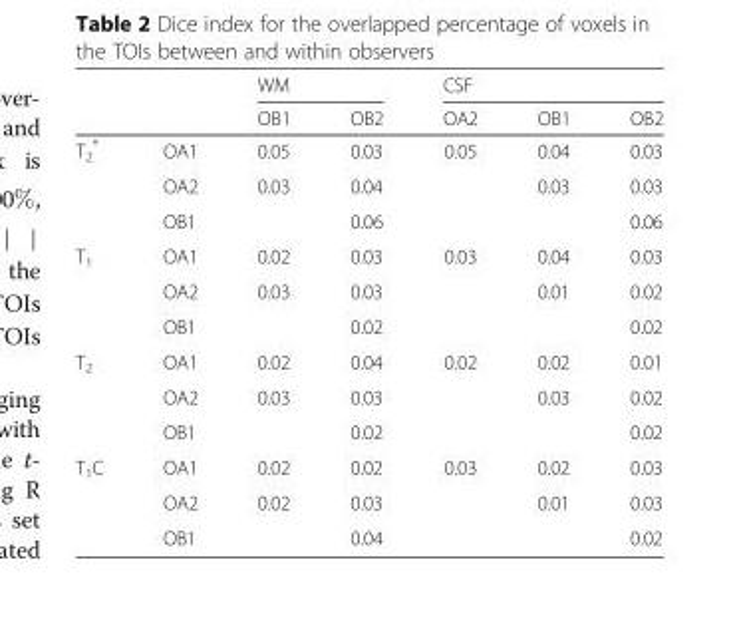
<table><thead><tr><td rowspan="2"></td><td rowspan="2"></td><td colspan="2">WM</td><td colspan="3">CSF</td></tr><tr><td>OB1</td><td>OB2</td><td>OA2</td><td>OB1</td><td>OB2</td></tr></thead><tbody><tr><td rowspan="3">T<sub>2</sub> *</td><td>OA1</td><td>0.05</td><td>0.03</td><td>0.05</td><td>0.04</td><td>0.03</td></tr><tr><td>OA2</td><td>0.03</td><td>0.04</td><td></td><td>0.03</td><td>0.03</td></tr><tr><td>OB1</td><td></td><td>0.06</td><td></td><td></td><td>0.06</td></tr><tr><td rowspan="3">T<sub>1</sub></td><td>OA1</td><td>0.02</td><td>0.03</td><td>0.03</td><td>0.04</td><td>0.03</td></tr><tr><td>OA2</td><td>0.03</td><td>0.03</td><td></td><td>0.01</td><td>0.02</td></tr><tr><td>OB1</td><td></td><td>0.02</td><td></td><td></td><td>0.02</td></tr><tr><td rowspan="3">T<sub>2</sub></td><td>OA1</td><td>0.02</td><td>0.04</td><td>0.02</td><td>0.02</td><td>0.01</td></tr><tr><td>OA2</td><td>0.03</td><td>0.03</td><td></td><td>0.03</td><td>0.02</td></tr><tr><td>OB1</td><td></td><td>0.02</td><td></td><td></td><td>0.02</td></tr><tr><td rowspan="3">T<sub>1</sub>C</td><td>OA1</td><td>0.02</td><td>0.02</td><td>0.03</td><td>0.02</td><td>0.03</td></tr><tr><td>OA2</td><td>0.02</td><td>0.03</td><td></td><td>0.01</td><td>0.03</td></tr><tr><td>OB1</td><td></td><td>0.04</td><td></td><td></td><td>0.02</td></tr></tbody></table>